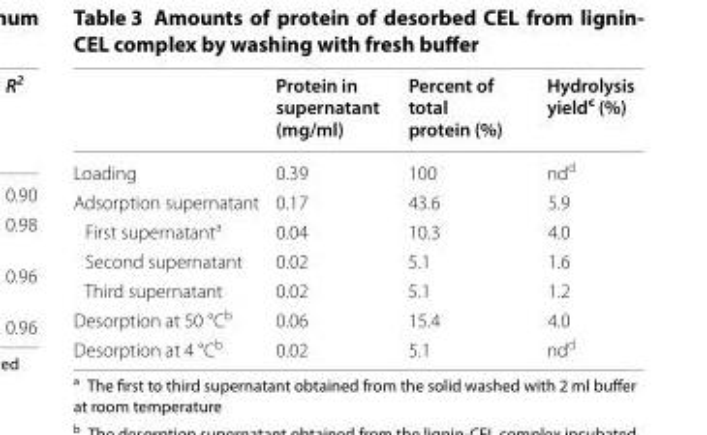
<table><thead><tr><td></td><td>Protein in supernatant (mg/ml)</td><td>Percent of total protein (%)</td><td>Hydrolysis yield<sup>c</sup> (%)</td></tr></thead><tbody><tr><td>Loading</td><td>0.39</td><td>100</td><td>nd<sup>d</sup></td></tr><tr><td>Adsorption supernatant</td><td>0.17</td><td>43.6</td><td>5.9</td></tr><tr><td>First supernatant<sup>a</sup></td><td>0.04</td><td>10.3</td><td>4.0</td></tr><tr><td>Second supernatant</td><td>0.02</td><td>5.1</td><td>1.6</td></tr><tr><td>Third supernatant</td><td>0.02</td><td>5.1</td><td>1.2</td></tr><tr><td>Desorption at 50 °C<sup>b</sup></td><td>0.06</td><td>15.4</td><td>4.0</td></tr><tr><td>Desorption at 4 °C<sup>b</sup></td><td>0.02</td><td>5.1</td><td>nd<sup>d</sup></td></tr></tbody></table>